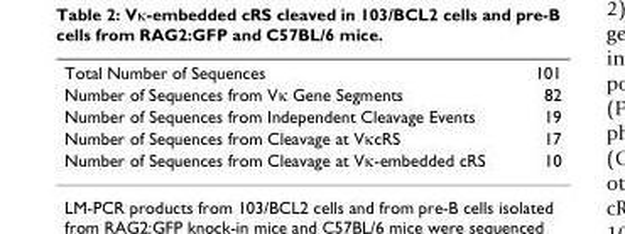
<table><tbody><tr><td>Total Number of Sequences</td><td>101</td></tr><tr><td>Number of Sequences from Vκ Gene Segments</td><td>82</td></tr><tr><td>Number of Sequences from Independent Cleavage Events</td><td>19</td></tr><tr><td>Number of Sequences from Cleavage at VκcRS</td><td>17</td></tr><tr><td>Number of Sequences from Cleavage at Vκ-embedded cRS</td><td>10</td></tr></tbody></table>